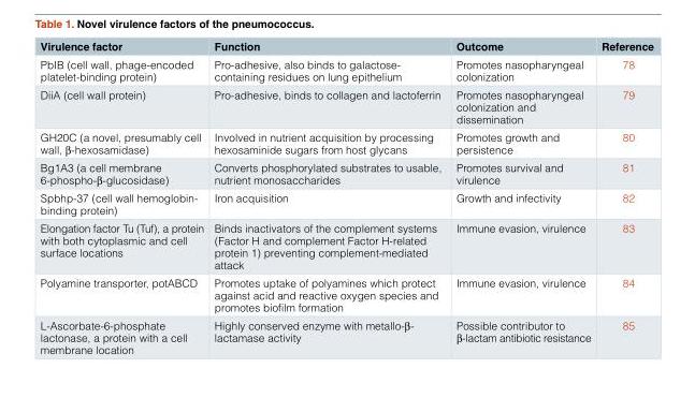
<table><thead><tr><td>Virulence factor</td><td>Function</td><td>Outcome</td><td>Reference</td></tr></thead><tbody><tr><td>PbIB (cell wall, phage-encoded platelet-binding protein)</td><td>Pro-adhesive, also binds to galactose- containing residues on lung epithelium</td><td>Promotes nasopharyngeal colonization</td><td>78</td></tr><tr><td>DiiA (cell wall protein)</td><td>Pro-adhesive, binds to collagen and lactoferrin</td><td>Promotes nasopharyngeal colonization and dissemination</td><td>79</td></tr><tr><td>GH20C (a novel, presumably cell wall, β-hexosamidase)</td><td>Involved in nutrient acquisition by processing hexosaminide sugars from host glycans</td><td>Promotes growth and persistence</td><td>80</td></tr><tr><td>Bg1A3 (a cell membrane 6-phospho-β-glucosidase)</td><td>Converts phosphorylated substrates to usable, nutrient monosaccharides</td><td>Promotes survival and virulence</td><td>81</td></tr><tr><td>Spbhp-37 (cell wall hemoglobin- binding protein)</td><td>Iron acquisition</td><td>Growth and infectivity</td><td>82</td></tr><tr><td>Elongation factor Tu (Tuf), a protein with both cytoplasmic and cell surface locations</td><td>Binds inactivators of the complement systems (Factor H and complement Factor H-related protein 1) preventing complement-mediated attack</td><td>Immune evasion, virulence</td><td>83</td></tr><tr><td>Polyamine transporter, potABCD</td><td>Promotes uptake of polyamines which protect against acid and reactive oxygen species and promotes biofilm formation</td><td>Immune evasion, virulence</td><td>84</td></tr><tr><td>L-Ascorbate-6-phosphate lactonase, a protein with a cell membrane location</td><td>Highly conserved enzyme with metallo-β- lactamase activity</td><td>Possible contributor to β-lactam antibiotic resistance</td><td>85</td></tr></tbody></table>